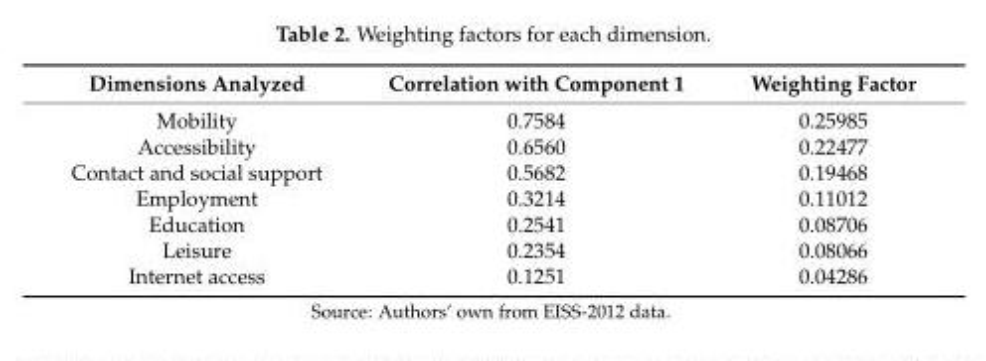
<table><thead><tr><td>Dimensions Analyzed</td><td>Correlation with Component 1</td><td>Weighting Factor</td></tr></thead><tbody><tr><td>Mobility</td><td>0.7584</td><td>0.25985</td></tr><tr><td>Accessibility</td><td>0.6560</td><td>0.22477</td></tr><tr><td>Contact and social support</td><td>0.5682</td><td>0.19468</td></tr><tr><td>Employment</td><td>0.3214</td><td>0.11012</td></tr><tr><td>Education</td><td>0.2541</td><td>0.08706</td></tr><tr><td>Leisure</td><td>0.2354</td><td>0.08066</td></tr><tr><td>Internet access</td><td>0.1251</td><td>0.04286</td></tr></tbody></table>